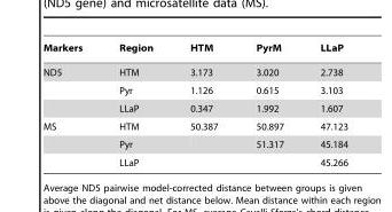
<table><thead><tr><td>Markers</td><td>Region</td><td>HTM</td><td>PyrM</td><td>LLaP</td></tr></thead><tbody><tr><td rowspan="3">ND5</td><td>HTM</td><td>3.173</td><td>3.020</td><td>2.738</td></tr><tr><td>Pyr</td><td>1.126</td><td>0.615</td><td>3.103</td></tr><tr><td>LLaP</td><td>0.347</td><td>1.992</td><td>1.607</td></tr><tr><td rowspan="3">MS</td><td>HTM</td><td>50.387</td><td>50.897</td><td>47.123</td></tr><tr><td>Pyr</td><td></td><td>51.317</td><td>45.184</td></tr><tr><td>LLaP</td><td></td><td></td><td>45.266</td></tr></tbody></table>